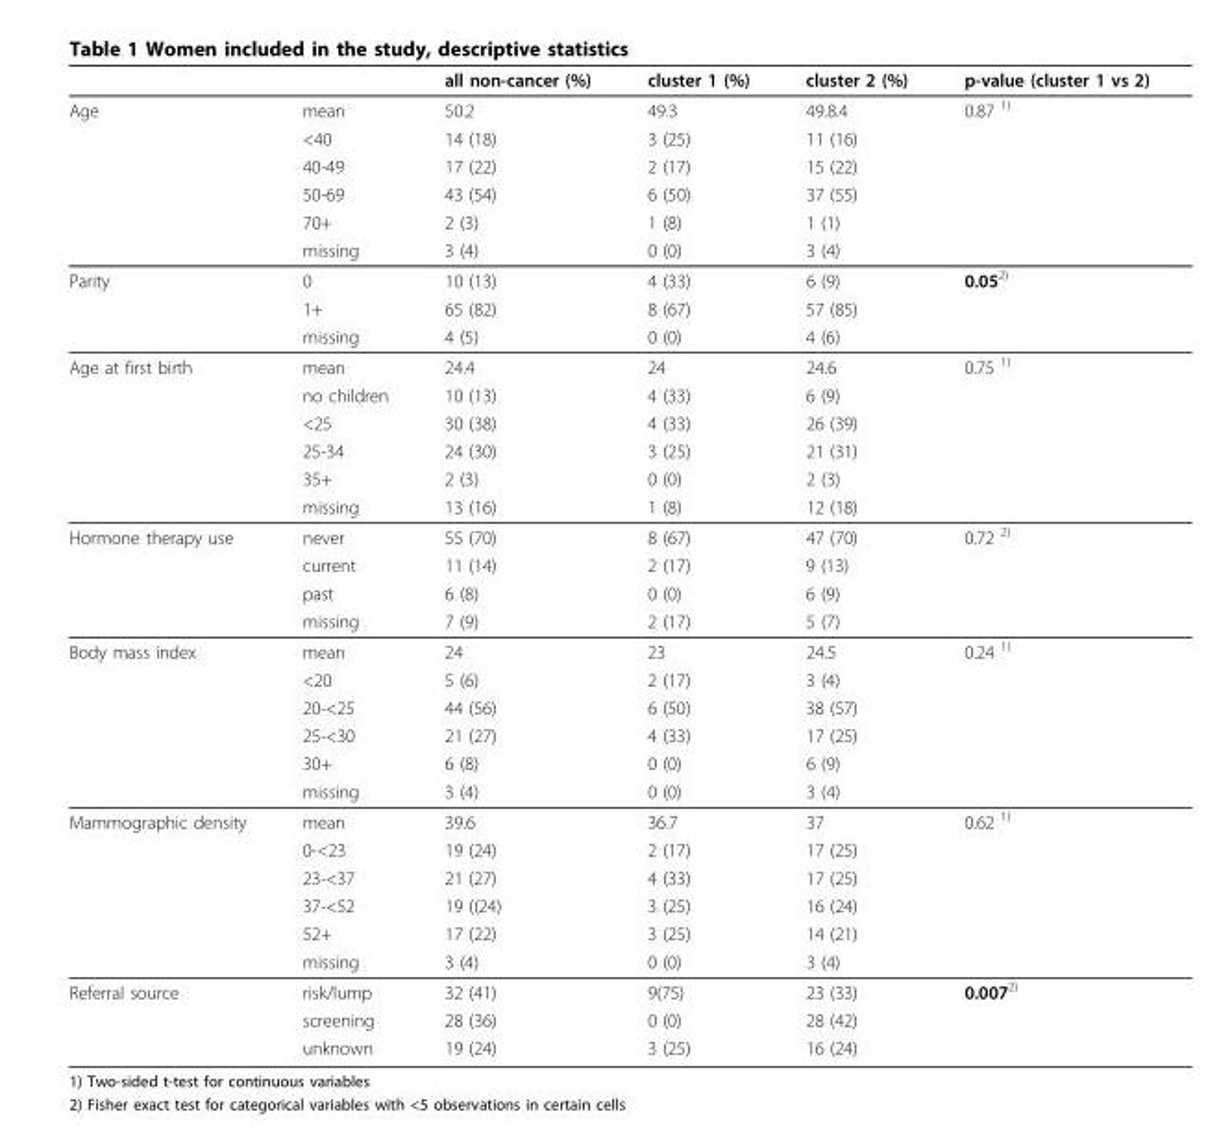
<table><thead><tr><td></td><td></td><td>all non-cancer (%)</td><td>cluster 1 (%)</td><td>cluster 2 (%)</td><td>p-value (cluster 1 vs 2)</td></tr></thead><tbody><tr><td rowspan="6">Age</td><td>mean</td><td>50.2</td><td>49.3</td><td>49.8.4</td><td>0.87 <sup>1)</sup></td></tr><tr><td>&lt;40</td><td>14 (18)</td><td>3 (25)</td><td>11 (16)</td><td></td></tr><tr><td>40-49</td><td>17 (22)</td><td>2 (17)</td><td>15 (22)</td><td></td></tr><tr><td>50-69</td><td>43 (54)</td><td>6 (50)</td><td>37 (55)</td><td></td></tr><tr><td>70+</td><td>2 (3)</td><td>1 (8)</td><td>1 (1)</td><td></td></tr><tr><td>missing</td><td>3 (4)</td><td>0 (0)</td><td>3 (4)</td><td></td></tr><tr><td rowspan="3">Parity</td><td>0</td><td>10 (13)</td><td>4 (33)</td><td>6 (9)</td><td>0.05<sup>2)</sup></td></tr><tr><td>1+</td><td>65 (82)</td><td>8 (67)</td><td>57 (85)</td><td></td></tr><tr><td>missing</td><td>4 (5)</td><td>0 (0)</td><td>4 (6)</td><td></td></tr><tr><td rowspan="6">Age at first birth</td><td>mean</td><td>24.4</td><td>24</td><td>24.6</td><td>0.75 <sup>1)</sup></td></tr><tr><td>no children</td><td>10 (13)</td><td>4 (33)</td><td>6 (9)</td><td></td></tr><tr><td>&lt;25</td><td>30 (38)</td><td>4 (33)</td><td>26 (39)</td><td></td></tr><tr><td>25-34</td><td>24 (30)</td><td>3 (25)</td><td>21 (31)</td><td></td></tr><tr><td>35+</td><td>2 (3)</td><td>0 (0)</td><td>2 (3)</td><td></td></tr><tr><td>missing</td><td>13 (16)</td><td>1 (8)</td><td>12 (18)</td><td></td></tr><tr><td rowspan="4">Hormone therapy use</td><td>never</td><td>55 (70)</td><td>8 (67)</td><td>47 (70)</td><td>0.72 <sup>2)</sup></td></tr><tr><td>current</td><td>11 (14)</td><td>2 (17)</td><td>9 (13)</td><td></td></tr><tr><td>past</td><td>6 (8)</td><td>0 (0)</td><td>6 (9)</td><td></td></tr><tr><td>missing</td><td>7 (9)</td><td>2 (17)</td><td>5 (7)</td><td></td></tr><tr><td rowspan="6">Body mass index</td><td>mean</td><td>24</td><td>23</td><td>24.5</td><td>0.24 <sup>1)</sup></td></tr><tr><td>&lt;20</td><td>5 (6)</td><td>2 (17)</td><td>3 (4)</td><td></td></tr><tr><td>20-&lt;25</td><td>44 (56)</td><td>6 (50)</td><td>38 (57)</td><td></td></tr><tr><td>25-&lt;30</td><td>21 (27)</td><td>4 (33)</td><td>17 (25)</td><td></td></tr><tr><td>30+</td><td>6 (8)</td><td>0 (0)</td><td>6 (9)</td><td></td></tr><tr><td>missing</td><td>3 (4)</td><td>0 (0)</td><td>3 (4)</td><td></td></tr><tr><td rowspan="6">Mammographic density</td><td>mean</td><td>39.6</td><td>36.7</td><td>37</td><td>0.62 <sup>1)</sup></td></tr><tr><td>0-&lt;23</td><td>19 (24)</td><td>2 (17)</td><td>17 (25)</td><td></td></tr><tr><td>23-&lt;37</td><td>21 (27)</td><td>4 (33)</td><td>17 (25)</td><td></td></tr><tr><td>37-&lt;52</td><td>19 ((24)</td><td>3 (25)</td><td>16 (24)</td><td></td></tr><tr><td>52+</td><td>17 (22)</td><td>3 (25)</td><td>14 (21)</td><td></td></tr><tr><td>missing</td><td>3 (4)</td><td>0 (0)</td><td>3 (4)</td><td></td></tr><tr><td rowspan="3">Referral source</td><td>risk/lump</td><td>32 (41)</td><td>9(75)</td><td>23 (33)</td><td>0.007<sup>2)</sup></td></tr><tr><td>screening</td><td>28 (36)</td><td>0 (0)</td><td>28 (42)</td><td></td></tr><tr><td>unknown</td><td>19 (24)</td><td>3 (25)</td><td>16 (24)</td><td></td></tr></tbody></table>